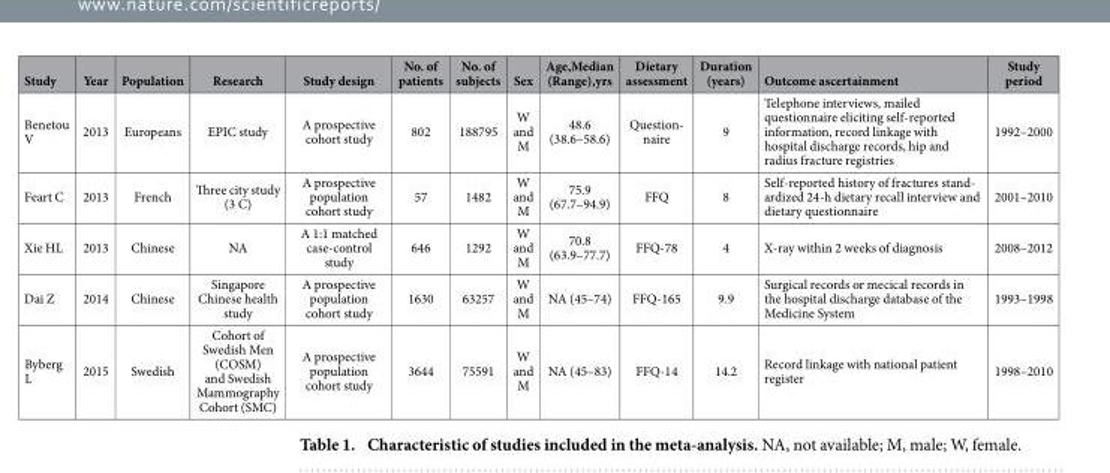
<table><thead><tr><td>Study</td><td>Year</td><td>Population</td><td>Research</td><td>Study design</td><td>No. of patients</td><td>No. of subjects</td><td>Sex</td><td>Age,Median (Range),yrs</td><td>Dietary assessment</td><td>Duration (years)</td><td>Outcome ascertainment</td><td>Study period</td></tr></thead><tbody><tr><td>Benetou V</td><td>2013</td><td>Europeans</td><td>EPIC study</td><td>A prospective cohort study</td><td>802</td><td>188795</td><td>W and M</td><td>48.6 (38.6–58.6)</td><td>Question- naire</td><td>9</td><td>Telephone interviews, mailed questionnaire eliciting self-reported information, record linkage with hospital discharge records, hip and radius fracture registries</td><td>1992–2000</td></tr><tr><td>Feart C</td><td>2013</td><td>French</td><td>Three city study (3 C)</td><td>A prospective population cohort study</td><td>57</td><td>1482</td><td>W and M</td><td>75.9 (67.7–94.9)</td><td>FFQ</td><td>8</td><td>Self-reported history of fractures stand- ardized 24-h dietary recall interview and dietary questionnaire</td><td>2001–2010</td></tr><tr><td>Xie HL</td><td>2013</td><td>Chinese</td><td>NA</td><td>A 1:1 matched case-control study</td><td>646</td><td>1292</td><td>W and M</td><td>70.8 (63.9–77.7)</td><td>FFQ-78</td><td>4</td><td>X-ray within 2 weeks of diagnosis</td><td>2008–2012</td></tr><tr><td>Dai Z</td><td>2014</td><td>Chinese</td><td>Singapore Chinese health study</td><td>A prospective population cohort study</td><td>1630</td><td>63257</td><td>W and M</td><td>NA (45–74)</td><td>FFQ-165</td><td>9.9</td><td>Surgical records or mecical records in the hospital discharge database of the Medicine System</td><td>1993–1998</td></tr><tr><td>Byberg L</td><td>2015</td><td>Swedish</td><td>Cohort of Swedish Men (COSM) and Swedish Mammography Cohort (SMC)</td><td>A prospective population cohort study</td><td>3644</td><td>75591</td><td>W and M</td><td>NA (45–83)</td><td>FFQ-14</td><td>14.2</td><td>Record linkage with national patient register</td><td>1998–2010</td></tr></tbody></table>